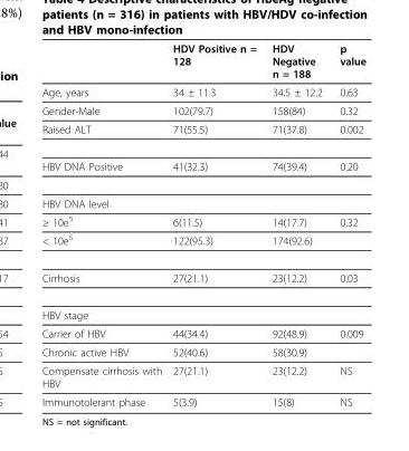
<table><thead><tr><td></td><td>HDV Positive n = 128</td><td>HDV Negative n = 188</td><td>p value</td></tr></thead><tbody><tr><td>Age, years</td><td>34 ± 11.3</td><td>34.5 ± 12.2</td><td>0.63</td></tr><tr><td>Gender-Male</td><td>102(79.7)</td><td>158(84)</td><td>0.32</td></tr><tr><td>Raised ALT</td><td>71(55.5)</td><td>71(37.8)</td><td>0.002</td></tr><tr><td>HBV DNA Positive</td><td>41(32.3)</td><td>74(39.4)</td><td>0.20</td></tr><tr><td colspan="4">HBV DNA level</td></tr><tr><td>≥ 10e5</td><td>6(11.5)</td><td>14(17.7)</td><td>0.32</td></tr><tr><td>&lt; 10e5</td><td>122(95.3)</td><td>174(92.6)</td><td></td></tr><tr><td>Cirrhosis</td><td>27(21.1)</td><td>23(12.2)</td><td>0.03</td></tr><tr><td colspan="4">HBV stage</td></tr><tr><td>Carrier of HBV</td><td>44(34.4)</td><td>92(48.9)</td><td>0.009</td></tr><tr><td>Chronic active HBV</td><td>52(40.6)</td><td>58(30.9)</td><td></td></tr><tr><td>Compensate cirrhosis with HBV</td><td>27(21.1)</td><td>23(12.2)</td><td>NS</td></tr><tr><td>Immunotolerant phase</td><td>5(3.9)</td><td>15(8)</td><td>NS</td></tr></tbody></table>